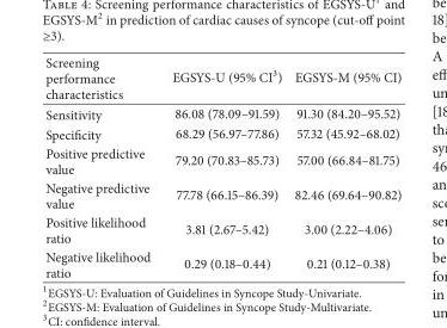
<table><thead><tr><td>Screening performance characteristics</td><td>EGSYS-U (95% CI<sup>3</sup>)</td><td>EGSYS-M (95% CI)</td></tr></thead><tbody><tr><td>Sensitivity</td><td>86.08 (78.09–91.59)</td><td>91.30 (84.20–95.52)</td></tr><tr><td>Specificity</td><td>68.29 (56.97–77.86)</td><td>57.32 (45.92–68.02)</td></tr><tr><td>Positive predictive value</td><td>79.20 (70.83–85.73)</td><td>57.00 (66.84–81.75)</td></tr><tr><td>Negative predictive value</td><td>77.78 (66.15–86.39)</td><td>82.46 (69.64–90.82)</td></tr><tr><td>Positive likelihood ratio</td><td>3.81 (2.67–5.42)</td><td>3.00 (2.22–4.06)</td></tr><tr><td>Negative likelihood ratio</td><td>0.29 (0.18–0.44)</td><td>0.21 (0.12–0.38)</td></tr></tbody></table>